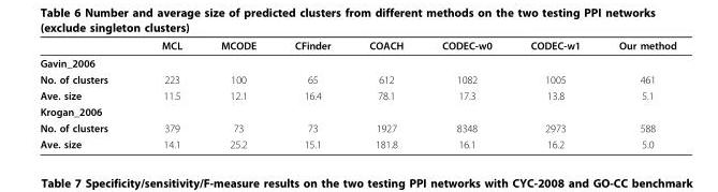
<table><thead><tr><td></td><td>MCL</td><td>MCODE</td><td>CFinder</td><td>COACH</td><td>CODEC-w0</td><td>CODEC-w1</td><td>Our method</td></tr></thead><tbody><tr><td colspan="8">Gavin_2006</td></tr><tr><td>No. of clusters</td><td>223</td><td>100</td><td>65</td><td>612</td><td>1082</td><td>1005</td><td>461</td></tr><tr><td>Ave. size</td><td>11.5</td><td>12.1</td><td>16.4</td><td>78.1</td><td>17.3</td><td>13.8</td><td>5.1</td></tr><tr><td colspan="8">Krogan_2006</td></tr><tr><td>No. of clusters</td><td>379</td><td>73</td><td>73</td><td>1927</td><td>8348</td><td>2973</td><td>588</td></tr><tr><td>Ave. size</td><td>14.1</td><td>25.2</td><td>15.1</td><td>181.8</td><td>16.1</td><td>16.2</td><td>5.0</td></tr></tbody></table>